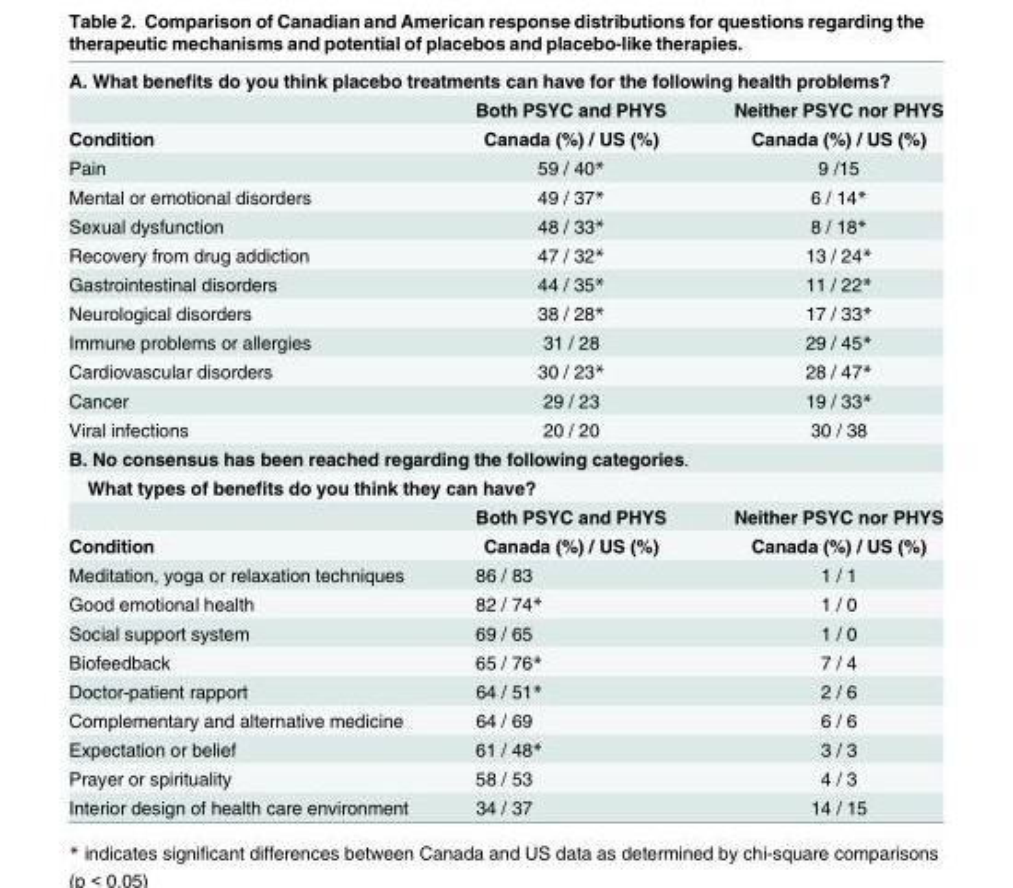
<table><tbody><tr><td colspan="3">A. What benefits do you think placebo treatments can have for the following health problems?</td></tr><tr><td></td><td>Both PSYC and PHYS</td><td>Neither PSYC nor PHYS</td></tr><tr><td>Condition</td><td>Canada (%) / US (%)</td><td>Canada (%) / US (%)</td></tr><tr><td>Pain</td><td>59 / 40*</td><td>9 /15</td></tr><tr><td>Mental or emotional disorders</td><td>49 / 37*</td><td>6 / 14*</td></tr><tr><td>Sexual dysfunction</td><td>48 / 33*</td><td>8 / 18*</td></tr><tr><td>Recovery from drug addiction</td><td>47 / 32*</td><td>13 / 24*</td></tr><tr><td>Gastrointestinal disorders</td><td>44 / 35*</td><td>11 / 22*</td></tr><tr><td>Neurological disorders</td><td>38 / 28*</td><td>17 / 33*</td></tr><tr><td>Immune problems or allergies</td><td>31 / 28</td><td>29 / 45*</td></tr><tr><td>Cardiovascular disorders</td><td>30 / 23*</td><td>28 / 47*</td></tr><tr><td>Cancer</td><td>29 / 23</td><td>19 / 33*</td></tr><tr><td>Viral infections</td><td>20 / 20</td><td>30 / 38</td></tr><tr><td colspan="3">B. No consensus has been reached regarding the following categories.</td></tr><tr><td colspan="3">What types of benefits do you think they can have?</td></tr><tr><td></td><td>Both PSYC and PHYS</td><td>Neither PSYC nor PHYS</td></tr><tr><td>Condition</td><td>Canada (%) / US (%)</td><td>Canada (%) / US (%)</td></tr><tr><td>Meditation, yoga or relaxation techniques</td><td>86 / 83</td><td>1 / 1</td></tr><tr><td>Good emotional health</td><td>82 / 74*</td><td>1 / 0</td></tr><tr><td>Social support system</td><td>69 / 65</td><td>1 / 0</td></tr><tr><td>Biofeedback</td><td>65 / 76*</td><td>7 / 4</td></tr><tr><td>Doctor-patient rapport</td><td>64 / 51*</td><td>2 / 6</td></tr><tr><td>Complementary and alternative medicine</td><td>64 / 69</td><td>6 / 6</td></tr><tr><td>Expectation or belief</td><td>61 / 48*</td><td>3 / 3</td></tr><tr><td>Prayer or spirituality</td><td>58 / 53</td><td>4 / 3</td></tr><tr><td>Interior design of health care environment</td><td>34 / 37</td><td>14 / 15</td></tr></tbody></table>